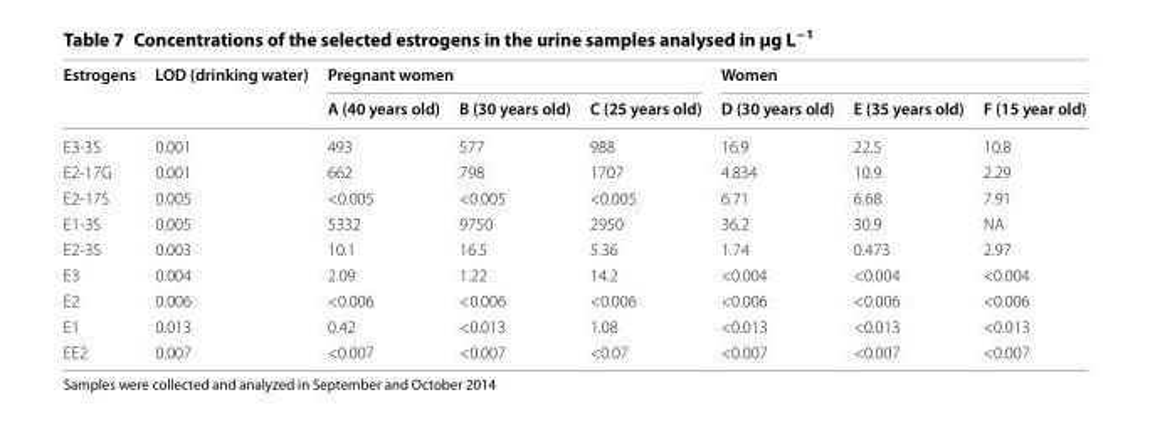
<table><thead><tr><td rowspan="2">Estrogens</td><td rowspan="2">LOD (drinking water)</td><td colspan="3">Pregnant women</td><td colspan="3">Women</td></tr><tr><td>A (40 years old)</td><td>B (30 years old)</td><td>C (25 years old)</td><td>D (30 years old)</td><td>E (35 years old)</td><td>F (15 year old)</td></tr></thead><tbody><tr><td>E3-3S</td><td>0.001</td><td>493</td><td>577</td><td>988</td><td>16.9</td><td>22.5</td><td>10.8</td></tr><tr><td>E2-17G</td><td>0.001</td><td>662</td><td>798</td><td>1707</td><td>4.834</td><td>10.9</td><td>2.29</td></tr><tr><td>E2-17S</td><td>0.005</td><td>&lt;0.005</td><td>&lt;0.005</td><td>&lt;0.005</td><td>6.71</td><td>6.68</td><td>7.91</td></tr><tr><td>E1-3S</td><td>0.005</td><td>5332</td><td>9750</td><td>2950</td><td>36.2</td><td>30.9</td><td>NA</td></tr><tr><td>E2-3S</td><td>0.003</td><td>10.1</td><td>16.5</td><td>5.36</td><td>1.74</td><td>0.473</td><td>2.97</td></tr><tr><td>E3</td><td>0.004</td><td>2.09</td><td>1.22</td><td>14.2</td><td>&lt;0.004</td><td>&lt;0.004</td><td>&lt;0.004</td></tr><tr><td>E2</td><td>0.006</td><td>&lt;0.006</td><td>&lt;0.006</td><td>&lt;0.006</td><td>&lt;0.006</td><td>&lt;0.006</td><td>&lt;0.006</td></tr><tr><td>E1</td><td>0.013</td><td>0.42</td><td>&lt;0.013</td><td>1.08</td><td>&lt;0.013</td><td>&lt;0.013</td><td>&lt;0.013</td></tr><tr><td>EE2</td><td>0.007</td><td>&lt;0.007</td><td>&lt;0.007</td><td>&lt;0.07</td><td>&lt;0.007</td><td>&lt;0.007</td><td>&lt;0.007</td></tr></tbody></table>